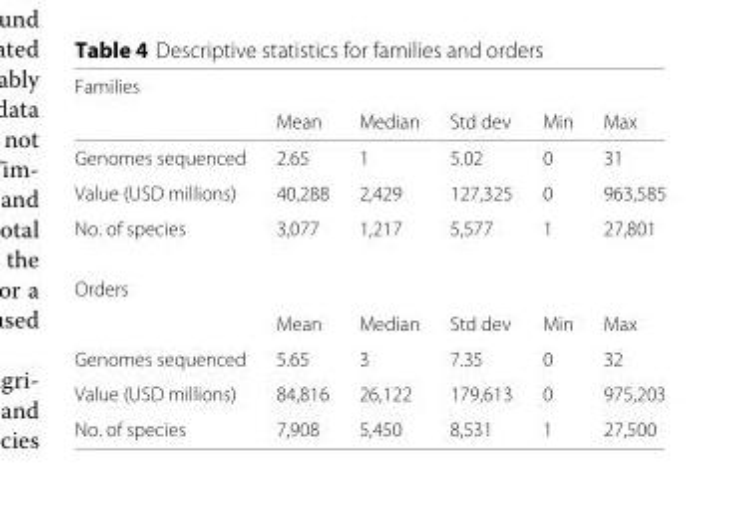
<table><thead><tr><td rowspan="2">Families</td><td rowspan="2">Mean</td><td rowspan="2">Median</td><td rowspan="2">Std dev</td><td rowspan="2">Min</td><td rowspan="2">Max</td></tr><tr></tr></thead><tbody><tr><td>Genomes sequenced</td><td>2.65</td><td>1</td><td>5.02</td><td>0</td><td>31</td></tr><tr><td>Value (USD millions)</td><td>40,288</td><td>2,429</td><td>127,325</td><td>0</td><td>963,585</td></tr><tr><td>No. of species</td><td>3,077</td><td>1,217</td><td>5,577</td><td>1</td><td>27,801</td></tr><tr><td colspan="6">Orders</td></tr><tr><td></td><td>Mean</td><td>Median</td><td>Std dev</td><td>Min</td><td>Max</td></tr><tr><td>Genomes sequenced</td><td>5.65</td><td>3</td><td>7.35</td><td>0</td><td>32</td></tr><tr><td>Value (USD millions)</td><td>84,816</td><td>26,122</td><td>179,613</td><td>0</td><td>975,203</td></tr><tr><td>No. of species</td><td>7,908</td><td>5,450</td><td>8,531</td><td>1</td><td>27,500</td></tr></tbody></table>